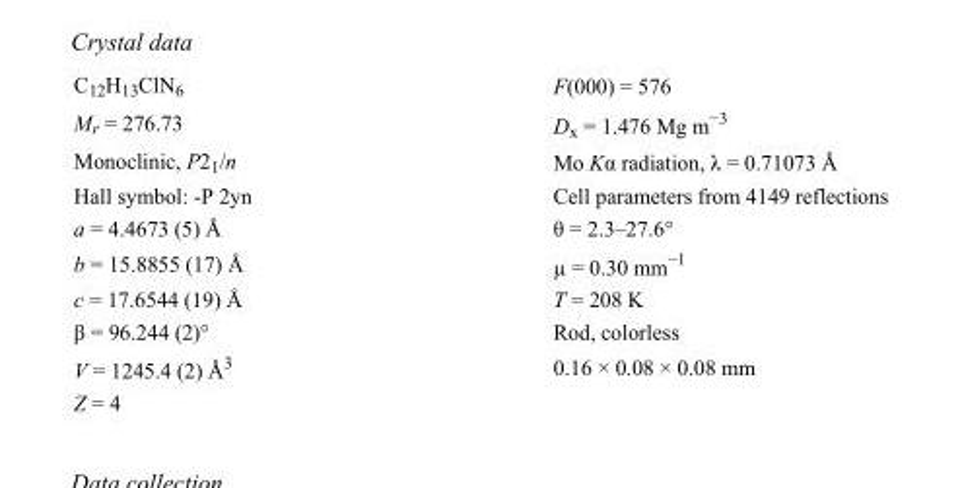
<table><tbody><tr><td>C<sub>12</sub>H<sub>13</sub>ClN<sub>6</sub></td><td>F(000) = 576</td></tr><tr><td>M<sub>r</sub> = 276.73</td><td>D<sub>x</sub> = 1.476 Mg m<sup>−3</sup></td></tr><tr><td>Monoclinic, P2<sub>1</sub>/n</td><td>Mo Kα radiation, λ = 0.71073 Å</td></tr><tr><td>Hall symbol: -P 2yn</td><td>Cell parameters from 4149 reflections</td></tr><tr><td>a = 4.4673 (5) Å</td><td>θ = 2.3–27.6°</td></tr><tr><td>b = 15.8855 (17) Å</td><td>µ = 0.30 mm<sup>−1</sup></td></tr><tr><td>c = 17.6544 (19) Å</td><td>T = 208 K</td></tr><tr><td>β = 96.244 (2)°</td><td>Rod, colorless</td></tr><tr><td>V = 1245.4 (2) Å<sup>3</sup></td><td>0.16 × 0.08 × 0.08 mm</td></tr><tr><td>Z = 4</td><td></td></tr></tbody></table>